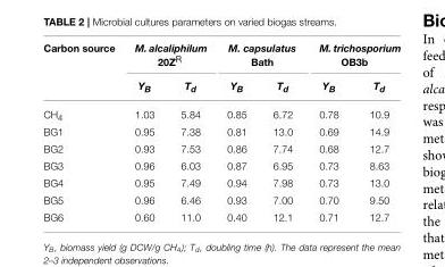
<table><thead><tr><td rowspan="2">Carbon source</td><td colspan="2">M. alcaliphilum 20Z<sup>R</sup></td><td colspan="2">M. capsulatus Bath</td><td colspan="2">M. trichosporium OB3b</td></tr><tr><td>YB</td><td>Td</td><td>YB</td><td>Td</td><td>YB</td><td>Td</td></tr></thead><tbody><tr><td>CH<sub>4</sub></td><td>1.03</td><td>5.84</td><td>0.85</td><td>6.72</td><td>0.78</td><td>10.9</td></tr><tr><td>BG1</td><td>0.95</td><td>7.38</td><td>0.81</td><td>13.0</td><td>0.69</td><td>14.9</td></tr><tr><td>BG2</td><td>0.93</td><td>7.53</td><td>0.86</td><td>7.74</td><td>0.68</td><td>12.7</td></tr><tr><td>BG3</td><td>0.96</td><td>6.03</td><td>0.87</td><td>6.95</td><td>0.73</td><td>8.63</td></tr><tr><td>BG4</td><td>0.95</td><td>7.49</td><td>0.94</td><td>7.98</td><td>0.73</td><td>13.0</td></tr><tr><td>BG5</td><td>0.96</td><td>6.46</td><td>0.93</td><td>7.00</td><td>0.70</td><td>9.50</td></tr><tr><td>BG6</td><td>0.60</td><td>11.0</td><td>0.40</td><td>12.1</td><td>0.71</td><td>12.7</td></tr></tbody></table>